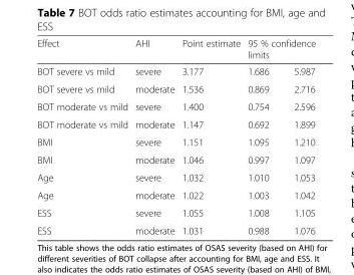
<table><thead><tr><td rowspan="2">Effect BOT severe vs mild</td><td rowspan="2">AHI severe</td><td rowspan="2">Point estimate 3.177</td><td colspan="2">95 % confidence limits</td></tr><tr><td>1.686</td><td>5.987</td></tr></thead><tbody><tr><td>BOT severe vs mild</td><td>moderate</td><td>1.536</td><td>0.869</td><td>2.716</td></tr><tr><td>BOT moderate vs mild</td><td>severe</td><td>1.400</td><td>0.754</td><td>2.596</td></tr><tr><td>BOT moderate vs mild</td><td>moderate</td><td>1.147</td><td>0.692</td><td>1.899</td></tr><tr><td>BMI</td><td>severe</td><td>1.151</td><td>1.095</td><td>1.210</td></tr><tr><td>BMI</td><td>moderate</td><td>1.046</td><td>0.997</td><td>1.097</td></tr><tr><td>Age</td><td>severe</td><td>1.032</td><td>1.010</td><td>1.053</td></tr><tr><td>Age</td><td>moderate</td><td>1.022</td><td>1.003</td><td>1.042</td></tr><tr><td>ESS</td><td>severe</td><td>1.055</td><td>1.008</td><td>1.105</td></tr><tr><td>ESS</td><td>moderate</td><td>1.031</td><td>0.988</td><td>1.076</td></tr></tbody></table>